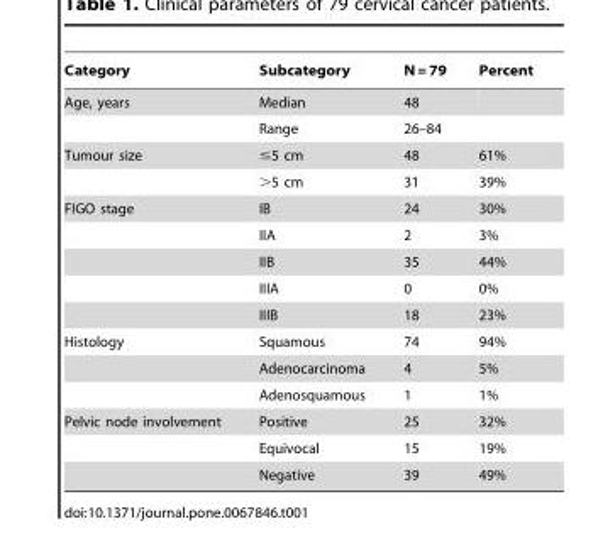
<table><thead><tr><td>Category</td><td>Subcategory</td><td>N = 79</td><td>Percent</td></tr></thead><tbody><tr><td rowspan="2">Age, years</td><td>Median</td><td>48</td><td></td></tr><tr><td>Range</td><td>26–84</td><td></td></tr><tr><td rowspan="2">Tumour size</td><td>≤5 cm</td><td>48</td><td>61%</td></tr><tr><td>&gt;5 cm</td><td>31</td><td>39%</td></tr><tr><td rowspan="5">FIGO stage</td><td>IB</td><td>24</td><td>30%</td></tr><tr><td>IIA</td><td>2</td><td>3%</td></tr><tr><td>IIB</td><td>35</td><td>44%</td></tr><tr><td>IIIA</td><td>0</td><td>0%</td></tr><tr><td>IIIB</td><td>18</td><td>23%</td></tr><tr><td rowspan="3">Histology</td><td>Squamous</td><td>74</td><td>94%</td></tr><tr><td>Adenocarcinoma</td><td>4</td><td>5%</td></tr><tr><td>Adenosquamous</td><td>1</td><td>1%</td></tr><tr><td rowspan="3">Pelvic node involvement</td><td>Positive</td><td>25</td><td>32%</td></tr><tr><td>Equivocal</td><td>15</td><td>19%</td></tr><tr><td>Negative</td><td>39</td><td>49%</td></tr></tbody></table>